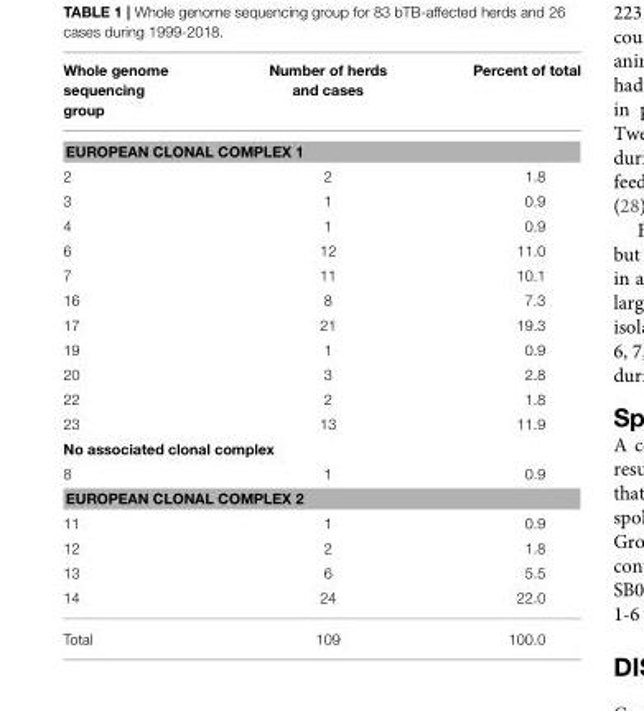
<table><thead><tr><td>Whole genome sequencing group</td><td>Number of herds and cases</td><td>Percent of total</td></tr></thead><tbody><tr><td colspan="3">EUROPEAN CLONAL COMPLEX 1</td></tr><tr><td>2</td><td>2</td><td>1.8</td></tr><tr><td>3</td><td>1</td><td>0.9</td></tr><tr><td>4</td><td>1</td><td>0.9</td></tr><tr><td>6</td><td>12</td><td>11.0</td></tr><tr><td>7</td><td>11</td><td>10.1</td></tr><tr><td>16</td><td>8</td><td>7.3</td></tr><tr><td>17</td><td>21</td><td>19.3</td></tr><tr><td>19</td><td>1</td><td>0.9</td></tr><tr><td>20</td><td>3</td><td>2.8</td></tr><tr><td>22</td><td>2</td><td>1.8</td></tr><tr><td>23</td><td>13</td><td>11.9</td></tr><tr><td colspan="3">No associated clonal complex</td></tr><tr><td>8</td><td>1</td><td>0.9</td></tr><tr><td colspan="3">EUROPEAN CLONAL COMPLEX 2</td></tr><tr><td>11</td><td>1</td><td>0.9</td></tr><tr><td>12</td><td>2</td><td>1.8</td></tr><tr><td>13</td><td>6</td><td>5.5</td></tr><tr><td>14</td><td>24</td><td>22.0</td></tr><tr><td>Total</td><td>109</td><td>100.0</td></tr></tbody></table>